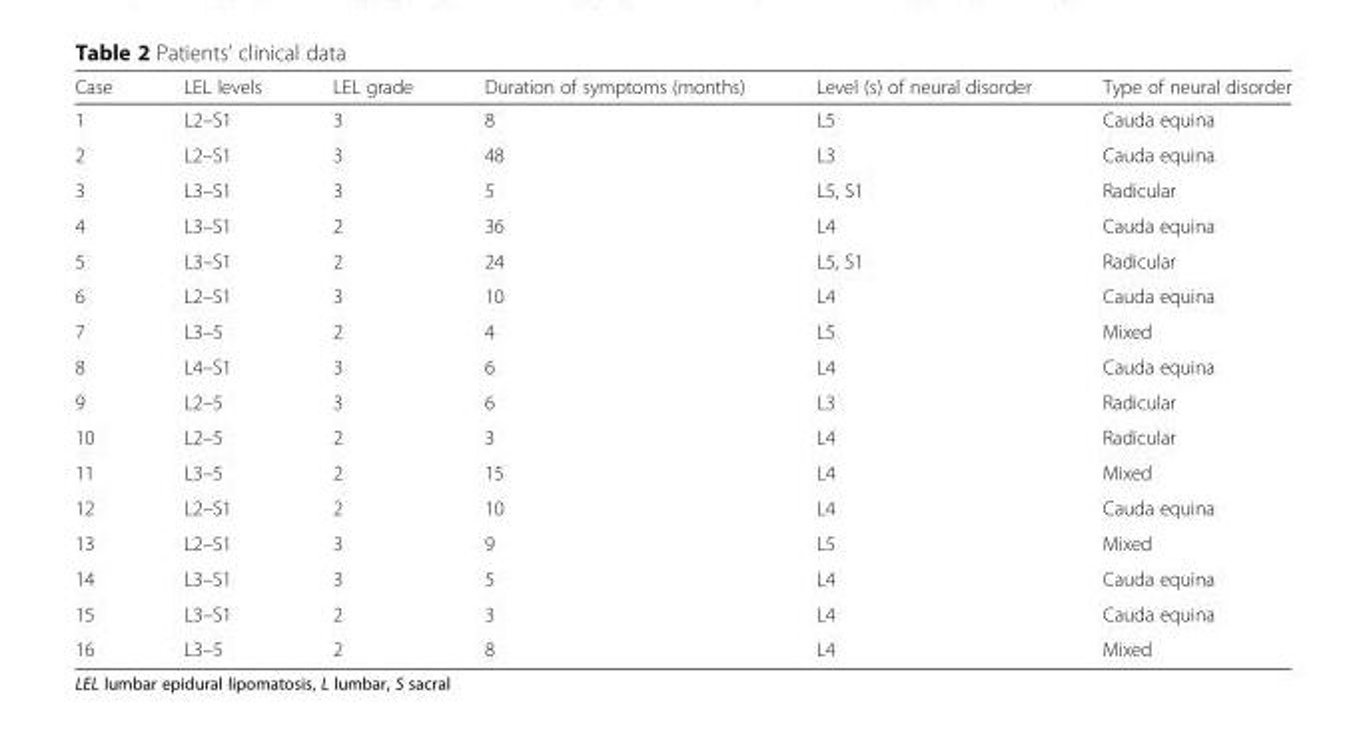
<table><thead><tr><td>Case</td><td>LEL levels</td><td>LEL grade</td><td>Duration of symptoms (months)</td><td>Level (s) of neural disorder</td><td>Type of neural disorder</td></tr></thead><tbody><tr><td>1</td><td>L2–S1</td><td>3</td><td>8</td><td>L5</td><td>Cauda equina</td></tr><tr><td>2</td><td>L2–S1</td><td>3</td><td>48</td><td>L3</td><td>Cauda equina</td></tr><tr><td>3</td><td>L3–S1</td><td>3</td><td>5</td><td>L5, S1</td><td>Radicular</td></tr><tr><td>4</td><td>L3–S1</td><td>2</td><td>36</td><td>L4</td><td>Cauda equina</td></tr><tr><td>5</td><td>L3–S1</td><td>2</td><td>24</td><td>L5, S1</td><td>Radicular</td></tr><tr><td>6</td><td>L2–S1</td><td>3</td><td>10</td><td>L4</td><td>Cauda equina</td></tr><tr><td>7</td><td>L3–5</td><td>2</td><td>4</td><td>L5</td><td>Mixed</td></tr><tr><td>8</td><td>L4–S1</td><td>3</td><td>6</td><td>L4</td><td>Cauda equina</td></tr><tr><td>9</td><td>L2–5</td><td>3</td><td>6</td><td>L3</td><td>Radicular</td></tr><tr><td>10</td><td>L2–5</td><td>2</td><td>3</td><td>L4</td><td>Radicular</td></tr><tr><td>11</td><td>L3–5</td><td>2</td><td>15</td><td>L4</td><td>Mixed</td></tr><tr><td>12</td><td>L2–S1</td><td>2</td><td>10</td><td>L4</td><td>Cauda equina</td></tr><tr><td>13</td><td>L2–S1</td><td>3</td><td>9</td><td>L5</td><td>Mixed</td></tr><tr><td>14</td><td>L3–S1</td><td>3</td><td>5</td><td>L4</td><td>Cauda equina</td></tr><tr><td>15</td><td>L3–S1</td><td>2</td><td>3</td><td>L4</td><td>Cauda equina</td></tr><tr><td>16</td><td>L3–5</td><td>2</td><td>8</td><td>L4</td><td>Mixed</td></tr></tbody></table>